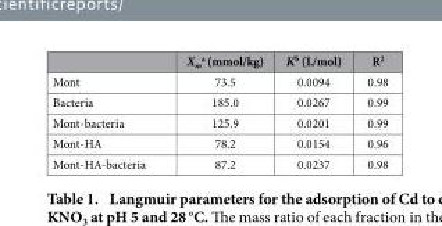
<table><thead><tr><td></td><td>X<sub>m</sub> <sup>a</sup> (mmol/kg)</td><td>K<sup>b</sup> (L/mol)</td><td>R<sup>2</sup></td></tr></thead><tbody><tr><td>Mont</td><td>73.5</td><td>0.0094</td><td>0.98</td></tr><tr><td>Bacteria</td><td>185.0</td><td>0.0267</td><td>0.99</td></tr><tr><td>Mont-bacteria</td><td>125.9</td><td>0.0201</td><td>0.99</td></tr><tr><td>Mont-HA</td><td>78.2</td><td>0.0154</td><td>0.96</td></tr><tr><td>Mont-HA-bacteria</td><td>87.2</td><td>0.0237</td><td>0.98</td></tr></tbody></table>